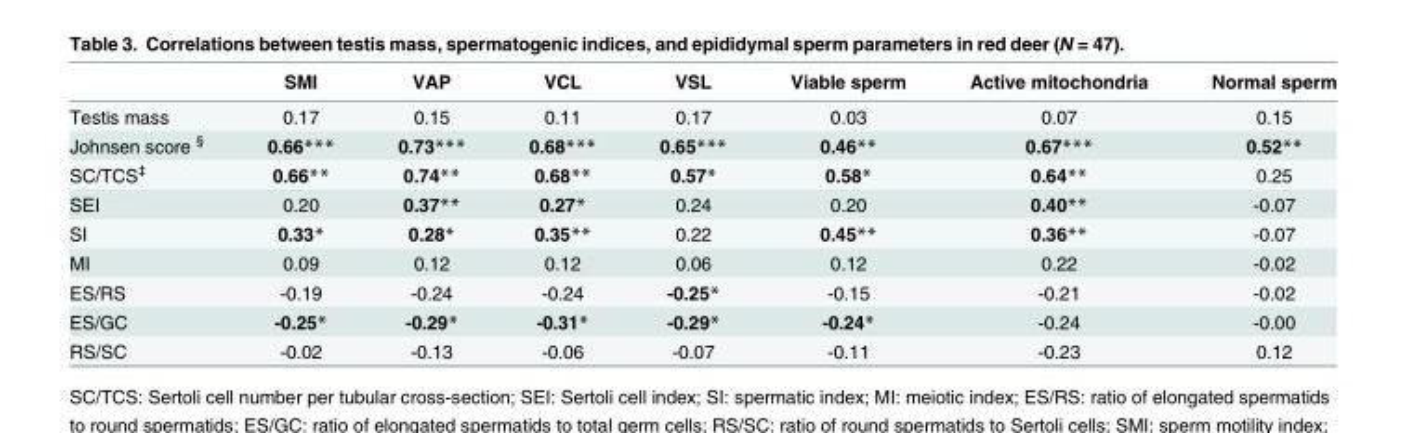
<table><thead><tr><td></td><td>SMI</td><td>VAP</td><td>VCL</td><td>VSL</td><td>Viable sperm</td><td>Active mitochondria</td><td>Normal sperm</td></tr></thead><tbody><tr><td>Testis mass</td><td>0.17</td><td>0.15</td><td>0.11</td><td>0.17</td><td>0.03</td><td>0.07</td><td>0.15</td></tr><tr><td>Johnsen score <sup>§</sup></td><td>0.66***</td><td>0.73***</td><td>0.68***</td><td>0.65***</td><td>0.46**</td><td>0.67***</td><td>0.52**</td></tr><tr><td>SC/TCS<sup>‡</sup></td><td>0.66**</td><td>0.74**</td><td>0.68**</td><td>0.57*</td><td>0.58*</td><td>0.64**</td><td>0.25</td></tr><tr><td>SEI</td><td>0.20</td><td>0.37**</td><td>0.27*</td><td>0.24</td><td>0.20</td><td>0.40**</td><td>-0.07</td></tr><tr><td>SI</td><td>0.33*</td><td>0.28*</td><td>0.35**</td><td>0.22</td><td>0.45**</td><td>0.36**</td><td>-0.07</td></tr><tr><td>MI</td><td>0.09</td><td>0.12</td><td>0.12</td><td>0.06</td><td>0.12</td><td>0.22</td><td>-0.02</td></tr><tr><td>ES/RS</td><td>-0.19</td><td>-0.24</td><td>-0.24</td><td>-0.25*</td><td>-0.15</td><td>-0.21</td><td>-0.02</td></tr><tr><td>ES/GC</td><td>-0.25*</td><td>-0.29*</td><td>-0.31*</td><td>-0.29*</td><td>-0.24*</td><td>-0.24</td><td>-0.00</td></tr><tr><td>RS/SC</td><td>-0.02</td><td>-0.13</td><td>-0.06</td><td>-0.07</td><td>-0.11</td><td>-0.23</td><td>0.12</td></tr></tbody></table>